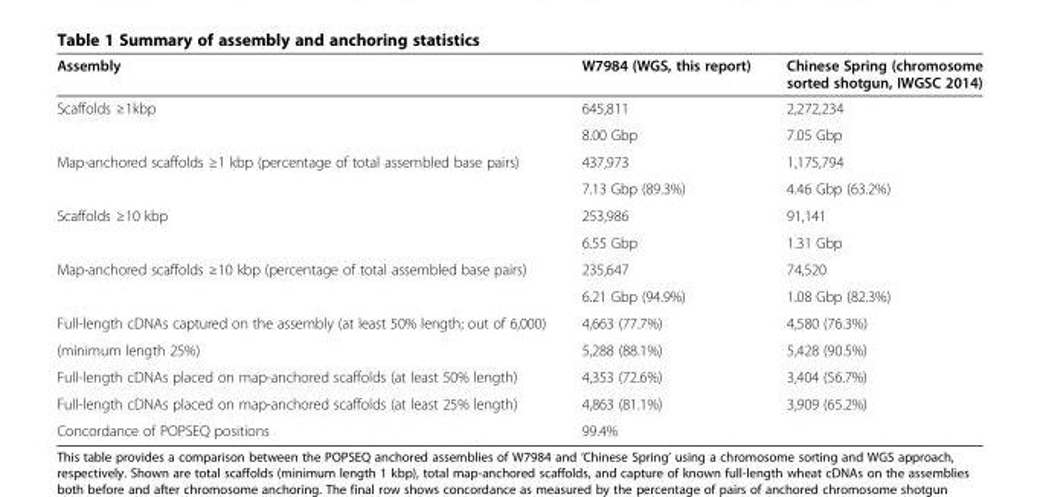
<table><thead><tr><td>Assembly</td><td>W7984 (WGS, this report)</td><td>Chinese Spring (chromosome sorted shotgun, IWGSC 2014)</td></tr></thead><tbody><tr><td rowspan="2">Scaffolds ≥1kbp</td><td>645,811</td><td>2,272,234</td></tr><tr><td>8.00 Gbp</td><td>7.05 Gbp</td></tr><tr><td rowspan="2">Map-anchored scaffolds ≥1 kbp (percentage of total assembled base pairs)</td><td>437,973</td><td>1,175,794</td></tr><tr><td>7.13 Gbp (89.3%)</td><td>4.46 Gbp (63.2%)</td></tr><tr><td rowspan="2">Scaffolds ≥10 kbp</td><td>253,986</td><td>91,141</td></tr><tr><td>6.55 Gbp</td><td>1.31 Gbp</td></tr><tr><td rowspan="2">Map-anchored scaffolds ≥10 kbp (percentage of total assembled base pairs)</td><td>235,647</td><td>74,520</td></tr><tr><td>6.21 Gbp (94.9%)</td><td>1.08 Gbp (82.3%)</td></tr><tr><td>Full-length cDNAs captured on the assembly (at least 50% length; out of 6,000)</td><td>4,663 (77.7%)</td><td>4,580 (76.3%)</td></tr><tr><td>(minimum length 25%)</td><td>5,288 (88.1%)</td><td>5,428 (90.5%)</td></tr><tr><td>Full-length cDNAs placed on map-anchored scaffolds (at least 50% length)</td><td>4,353 (72.6%)</td><td>3,404 (56.7%)</td></tr><tr><td>Full-length cDNAs placed on map-anchored scaffolds (at least 25% length)</td><td>4,863 (81.1%)</td><td>3,909 (65.2%)</td></tr><tr><td>Concordance of POPSEQ positions</td><td colspan="2">99.4%</td></tr></tbody></table>